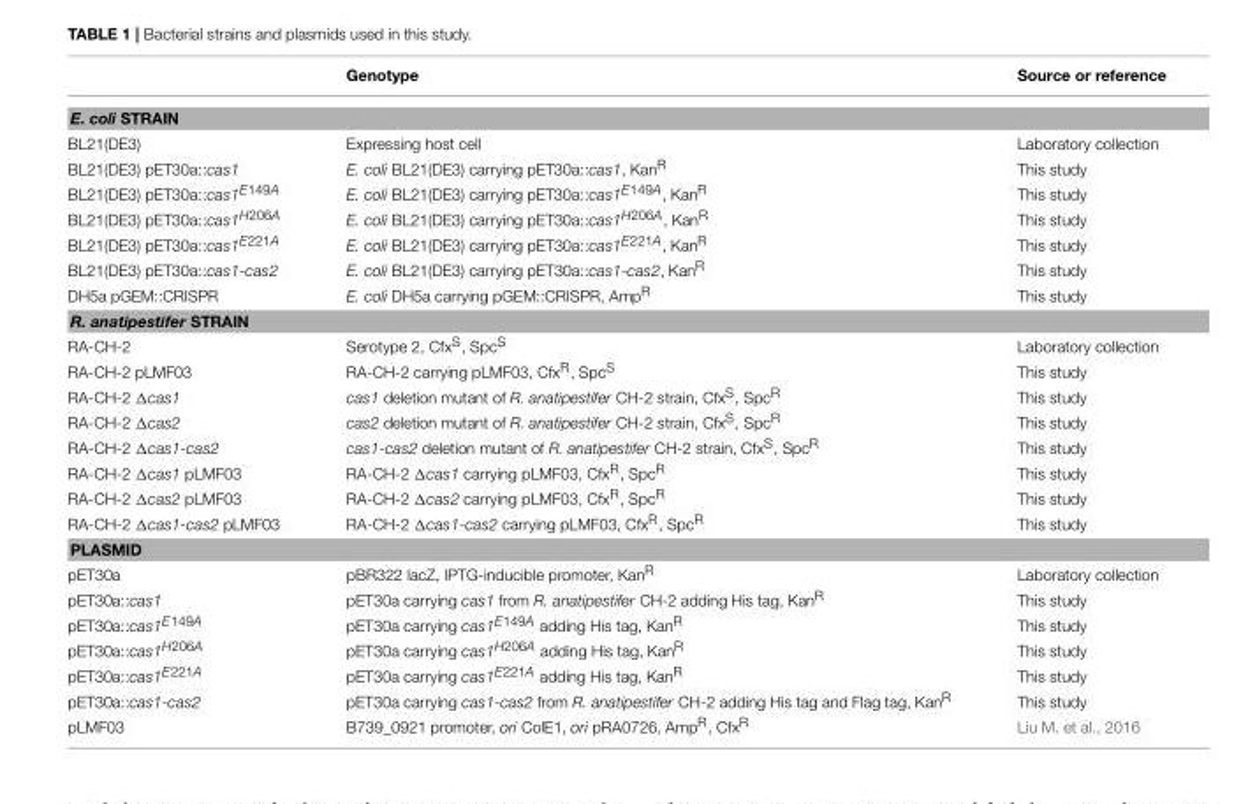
<table><thead><tr><td></td><td>Genotype</td><td>Source or reference</td></tr></thead><tbody><tr><td colspan="3">E. coli STRAIN</td></tr><tr><td>BL21(DE3)</td><td>Expressing host cell</td><td>Laboratory collection</td></tr><tr><td>BL21(DE3) pET30a::cas1</td><td>E. coli BL21(DE3) carrying pET30a::cas1, Kan<sup>R</sup></td><td>This study</td></tr><tr><td>BL21(DE3) pET30a::cas1E149A</td><td>E. coli BL21(DE3) carrying pET30a::cas1E149A, KanR</td><td>This study</td></tr><tr><td>BL21(DE3) pET30a::cas1H206A</td><td>E. coli BL21(DE3) carrying pET30a::cas1H206A, KanR</td><td>This study</td></tr><tr><td>BL21(DE3) pET30a::cas1E221A</td><td>E. coli BL21(DE3) carrying pET30a::cas1E221A, KanR</td><td>This study</td></tr><tr><td>BL21(DE3) pET30a::cas1-cas2</td><td>E. coli BL21(DE3) carrying pET30a::cas1-cas2, Kan<sup>R</sup></td><td>This study</td></tr><tr><td>DH5a pGEM::CRISPR</td><td>E. coli DH5a carrying pGEM::CRISPR, Amp<sup>R</sup></td><td>This study</td></tr><tr><td colspan="3">R. anatipestifer STRAIN</td></tr><tr><td>RA-CH-2</td><td>Serotype 2, Cfx<sup>S</sup>, Spc<sup>S</sup></td><td>Laboratory collection</td></tr><tr><td>RA-CH-2 pLMF03</td><td>RA-CH-2 carrying pLMF03, Cfx<sup>R</sup>, Spc<sup>S</sup></td><td>This study</td></tr><tr><td>RA-CH-2 Δcas1</td><td>cas1 deletion mutant of R. anatipestifer CH-2 strain, Cfx<sup>S</sup>, Spc<sup>R</sup></td><td>This study</td></tr><tr><td>RA-CH-2 Δcas2</td><td>cas2 deletion mutant of R. anatipestifer CH-2 strain, Cfx<sup>S</sup>, Spc<sup>R</sup></td><td>This study</td></tr><tr><td>RA-CH-2 Δcas1-cas2</td><td>cas1-cas2 deletion mutant of R. anatipestifer CH-2 strain, Cfx<sup>S</sup>, Spc<sup>R</sup></td><td>This study</td></tr><tr><td>RA-CH-2 Δcas1 pLMF03</td><td>RA-CH-2 Δcas1 carrying pLMF03, Cfx<sup>R</sup>, Spc<sup>R</sup></td><td>This study</td></tr><tr><td>RA-CH-2 Δcas2 pLMF03</td><td>RA-CH-2 Δcas2 carrying pLMF03, Cfx<sup>R</sup>, Spc<sup>R</sup></td><td>This study</td></tr><tr><td>RA-CH-2 Δcas1-cas2 pLMF03</td><td>RA-CH-2 Δcas1-cas2 carrying pLMF03, Cfx<sup>R</sup>, Spc<sup>R</sup></td><td>This study</td></tr><tr><td colspan="3">PLASMID</td></tr><tr><td>pET30a</td><td>pBR322 lacZ, IPTG-inducible promoter, Kan<sup>R</sup></td><td>Laboratory collection</td></tr><tr><td>pET30a::cas1</td><td>pET30a carrying cas1 from R. anatipestifer CH-2 adding His tag, Kan<sup>R</sup></td><td>This study</td></tr><tr><td>pET30a::cas1E149A</td><td>pET30a carrying cas1E149A adding His tag, KanR</td><td>This study</td></tr><tr><td>pET30a::cas1H206A</td><td>pET30a carrying cas1H206A adding His tag, KanR</td><td>This study</td></tr><tr><td>pET30a::cas1E221A</td><td>pET30a carrying cas1E221A adding His tag, KanR</td><td>This study</td></tr><tr><td>pET30a::cas1-cas2</td><td>pET30a carrying cas1-cas2 from R. anatipestifer CH-2 adding His tag and Flag tag, Kan<sup>R</sup></td><td>This study</td></tr><tr><td>pLMF03</td><td>B739_0921 promoter, ori ColE1, ori pRA0726, Amp<sup>R</sup>, Cfx<sup>R</sup></td><td>Liu M. et al., 2016</td></tr></tbody></table>